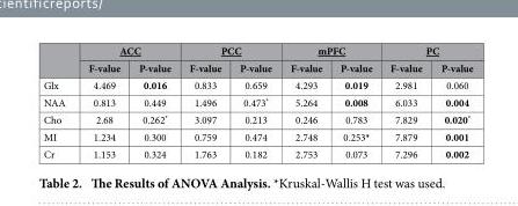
<table><thead><tr><td rowspan="2"></td><td colspan="2">ACC</td><td colspan="2">PCC</td><td colspan="2">mPFC</td><td colspan="2">PC</td></tr><tr><td>F-value</td><td>P-value</td><td>F-value</td><td>P-value</td><td>F-value</td><td>P-value</td><td>F-value</td><td>P-value</td></tr></thead><tbody><tr><td>Glx</td><td>4.469</td><td>0.016</td><td>0.833</td><td>0.659</td><td>4.293</td><td>0.019</td><td>2.981</td><td>0.060</td></tr><tr><td>NAA</td><td>0.813</td><td>0.449</td><td>1.496</td><td>0.473*</td><td>5.264</td><td>0.008</td><td>6.033</td><td>0.004</td></tr><tr><td>Cho</td><td>2.68</td><td>0.262*</td><td>3.097</td><td>0.213</td><td>0.246</td><td>0.783</td><td>7.829</td><td>0.020*</td></tr><tr><td>MI</td><td>1.234</td><td>0.300</td><td>0.759</td><td>0.474</td><td>2.748</td><td>0.253*</td><td>7.879</td><td>0.001</td></tr><tr><td>Cr</td><td>1.153</td><td>0.324</td><td>1.763</td><td>0.182</td><td>2.753</td><td>0.073</td><td>7.296</td><td>0.002</td></tr></tbody></table>